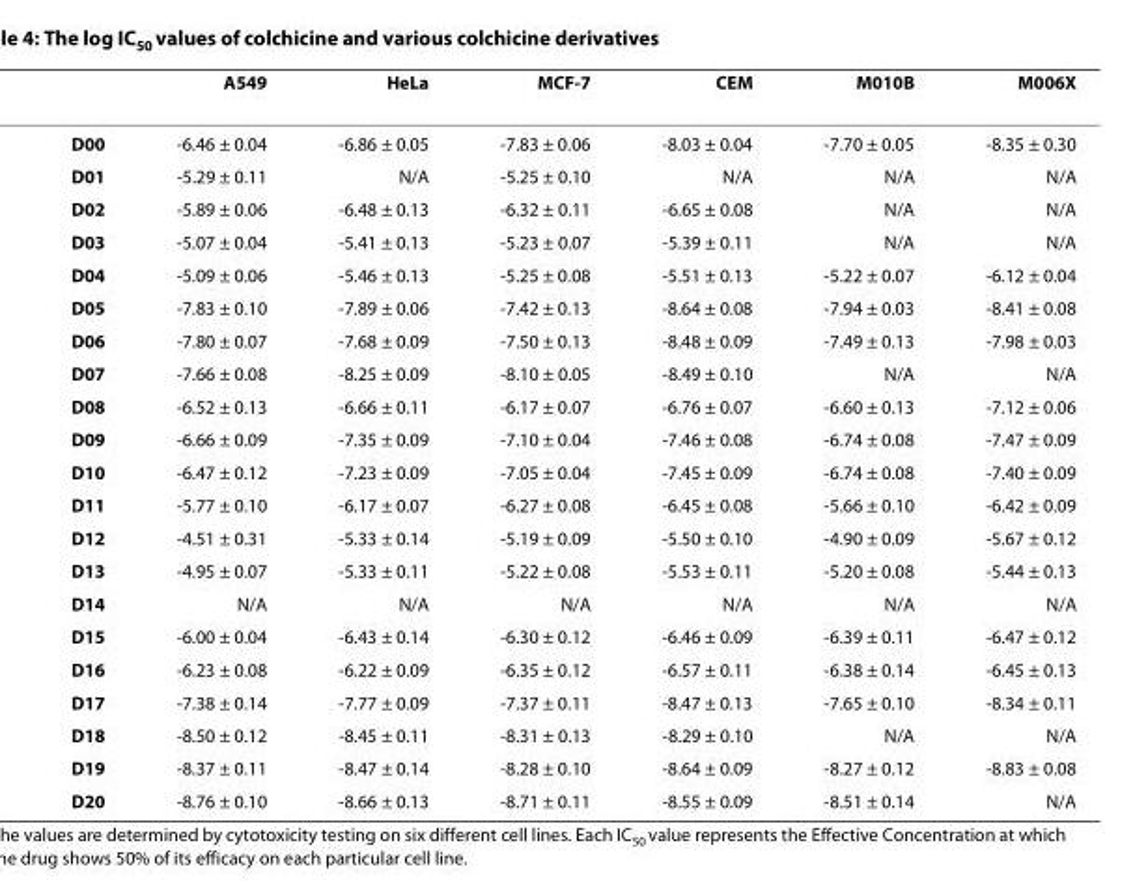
<table><thead><tr><td></td><td>A549</td><td>HeLa</td><td>MCF-7</td><td>CEM</td><td>M010B</td><td>M006X</td></tr></thead><tbody><tr><td>D00</td><td>-6.46 ± 0.04</td><td>-6.86 ± 0.05</td><td>-7.83 ± 0.06</td><td>-8.03 ± 0.04</td><td>-7.70 ± 0.05</td><td>-8.35 ± 0.30</td></tr><tr><td>D01</td><td>-5.29 ± 0.11</td><td>N/A</td><td>-5.25 ± 0.10</td><td>N/A</td><td>N/A</td><td>N/A</td></tr><tr><td>D02</td><td>-5.89 ± 0.06</td><td>-6.48 ± 0.13</td><td>-6.32 ± 0.11</td><td>-6.65 ± 0.08</td><td>N/A</td><td>N/A</td></tr><tr><td>D03</td><td>-5.07 ± 0.04</td><td>-5.41 ± 0.13</td><td>-5.23 ± 0.07</td><td>-5.39 ± 0.11</td><td>N/A</td><td>N/A</td></tr><tr><td>D04</td><td>-5.09 ± 0.06</td><td>-5.46 ± 0.13</td><td>-5.25 ± 0.08</td><td>-5.51 ± 0.13</td><td>-5.22 ± 0.07</td><td>-6.12 ± 0.04</td></tr><tr><td>D05</td><td>-7.83 ± 0.10</td><td>-7.89 ± 0.06</td><td>-7.42 ± 0.13</td><td>-8.64 ± 0.08</td><td>-7.94 ± 0.03</td><td>-8.41 ± 0.08</td></tr><tr><td>D06</td><td>-7.80 ± 0.07</td><td>-7.68 ± 0.09</td><td>-7.50 ± 0.13</td><td>-8.48 ± 0.09</td><td>-7.49 ± 0.13</td><td>-7.98 ± 0.03</td></tr><tr><td>D07</td><td>-7.66 ± 0.08</td><td>-8.25 ± 0.09</td><td>-8.10 ± 0.05</td><td>-8.49 ± 0.10</td><td>N/A</td><td>N/A</td></tr><tr><td>D08</td><td>-6.52 ± 0.13</td><td>-6.66 ± 0.11</td><td>-6.17 ± 0.07</td><td>-6.76 ± 0.07</td><td>-6.60 ± 0.13</td><td>-7.12 ± 0.06</td></tr><tr><td>D09</td><td>-6.66 ± 0.09</td><td>-7.35 ± 0.09</td><td>-7.10 ± 0.04</td><td>-7.46 ± 0.08</td><td>-6.74 ± 0.08</td><td>-7.47 ± 0.09</td></tr><tr><td>D10</td><td>-6.47 ± 0.12</td><td>-7.23 ± 0.09</td><td>-7.05 ± 0.04</td><td>-7.45 ± 0.09</td><td>-6.74 ± 0.08</td><td>-7.40 ± 0.09</td></tr><tr><td>D11</td><td>-5.77 ± 0.10</td><td>-6.17 ± 0.07</td><td>-6.27 ± 0.08</td><td>-6.45 ± 0.08</td><td>-5.66 ± 0.10</td><td>-6.42 ± 0.09</td></tr><tr><td>D12</td><td>-4.51 ± 0.31</td><td>-5.33 ± 0.14</td><td>-5.19 ± 0.09</td><td>-5.50 ± 0.10</td><td>-4.90 ± 0.09</td><td>-5.67 ± 0.12</td></tr><tr><td>D13</td><td>-4.95 ± 0.07</td><td>-5.33 ± 0.11</td><td>-5.22 ± 0.08</td><td>-5.53 ± 0.11</td><td>-5.20 ± 0.08</td><td>-5.44 ± 0.13</td></tr><tr><td>D14</td><td>N/A</td><td>N/A</td><td>N/A</td><td>N/A</td><td>N/A</td><td>N/A</td></tr><tr><td>D15</td><td>-6.00 ± 0.04</td><td>-6.43 ± 0.14</td><td>-6.30 ± 0.12</td><td>-6.46 ± 0.09</td><td>-6.39 ± 0.11</td><td>-6.47 ± 0.12</td></tr><tr><td>D16</td><td>-6.23 ± 0.08</td><td>-6.22 ± 0.09</td><td>-6.35 ± 0.12</td><td>-6.57 ± 0.11</td><td>-6.38 ± 0.14</td><td>-6.45 ± 0.13</td></tr><tr><td>D17</td><td>-7.38 ± 0.14</td><td>-7.77 ± 0.09</td><td>-7.37 ± 0.11</td><td>-8.47 ± 0.13</td><td>-7.65 ± 0.10</td><td>-8.34 ± 0.11</td></tr><tr><td>D18</td><td>-8.50 ± 0.12</td><td>-8.45 ± 0.11</td><td>-8.31 ± 0.13</td><td>-8.29 ± 0.10</td><td>N/A</td><td>N/A</td></tr><tr><td>D19</td><td>-8.37 ± 0.11</td><td>-8.47 ± 0.14</td><td>-8.28 ± 0.10</td><td>-8.64 ± 0.09</td><td>-8.27 ± 0.12</td><td>-8.83 ± 0.08</td></tr><tr><td>D20</td><td>-8.76 ± 0.10</td><td>-8.66 ± 0.13</td><td>-8.71 ± 0.11</td><td>-8.55 ± 0.09</td><td>-8.51 ± 0.14</td><td>N/A</td></tr></tbody></table>